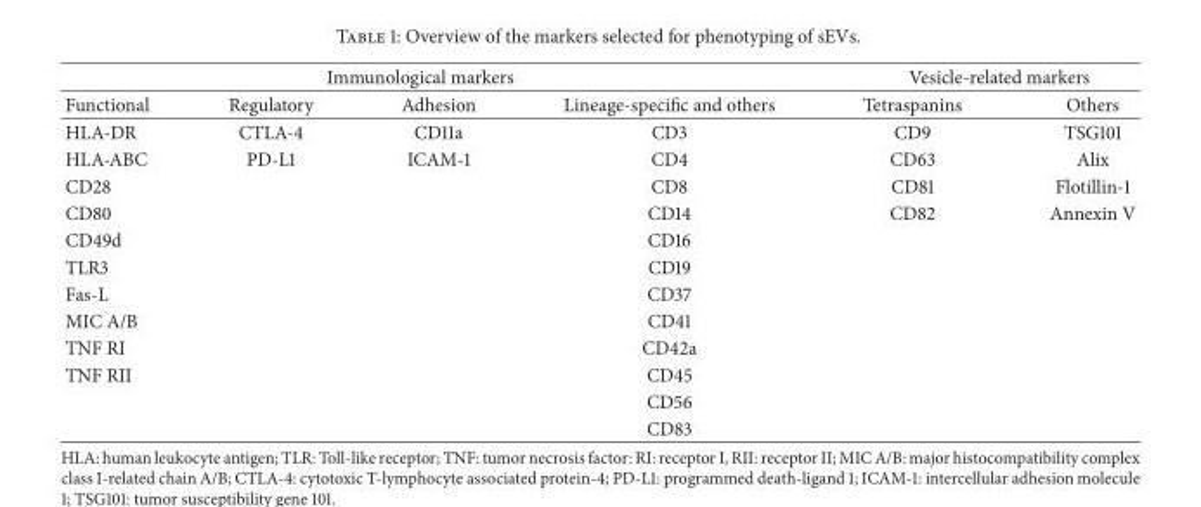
<table><thead><tr><td colspan="4">Immunological markers</td><td colspan="2">Vesicle-related markers</td></tr><tr><td>Functional</td><td>Regulatory</td><td>Adhesion</td><td>Lineage-specific and others</td><td>Tetraspanins</td><td>Others</td></tr></thead><tbody><tr><td>HLA-DR</td><td>CTLA-4</td><td>CD11a</td><td>CD3</td><td>CD9</td><td>TSG101</td></tr><tr><td>HLA-ABC</td><td>PD-L1</td><td>ICAM-1</td><td>CD4</td><td>CD63</td><td>Alix</td></tr><tr><td>CD28</td><td></td><td></td><td>CD8</td><td>CD81</td><td>Flotillin-1</td></tr><tr><td>CD80</td><td></td><td></td><td>CD14</td><td>CD82</td><td>Annexin V</td></tr><tr><td>CD49d</td><td></td><td></td><td>CD16</td><td></td><td></td></tr><tr><td>TLR3</td><td></td><td></td><td>CD19</td><td></td><td></td></tr><tr><td>Fas-L</td><td></td><td></td><td>CD37</td><td></td><td></td></tr><tr><td>MIC A/B</td><td></td><td></td><td>CD41</td><td></td><td></td></tr><tr><td>TNF RI</td><td></td><td></td><td>CD42a</td><td></td><td></td></tr><tr><td rowspan="3">TNF RII</td><td></td><td></td><td>CD45</td><td></td><td></td></tr><tr><td></td><td></td><td>CD56</td><td></td><td></td></tr><tr><td></td><td></td><td>CD83</td><td></td><td></td></tr></tbody></table>